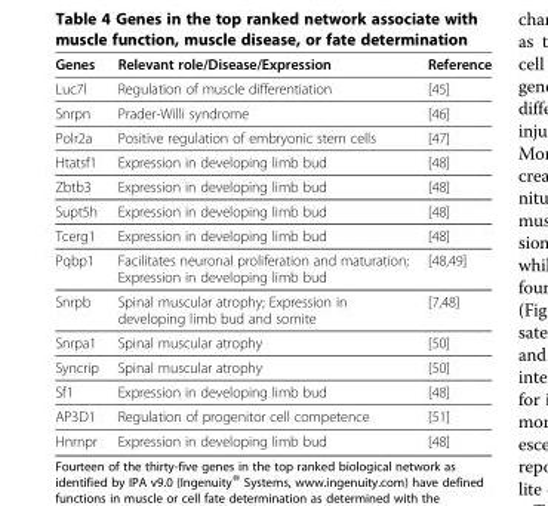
<table><thead><tr><td>Genes</td><td>Relevant role/Disease/Expression</td><td>Reference</td></tr></thead><tbody><tr><td>Luc7l</td><td>Regulation of muscle differentiation</td><td>[45]</td></tr><tr><td>Snrpn</td><td>Prader-Willi syndrome</td><td>[46]</td></tr><tr><td>Polr2a</td><td>Positive regulation of embryonic stem cells</td><td>[47]</td></tr><tr><td>Htatsf1</td><td>Expression in developing limb bud</td><td>[48]</td></tr><tr><td>Zbtb3</td><td>Expression in developing limb bud</td><td>[48]</td></tr><tr><td>Supt5h</td><td>Expression in developing limb bud</td><td>[48]</td></tr><tr><td>Tcerg1</td><td>Expression in developing limb bud</td><td>[48]</td></tr><tr><td>Pqbp1</td><td>Facilitates neuronal proliferation and maturation; Expression in developing limb bud</td><td>[48,49]</td></tr><tr><td>Snrpb</td><td>Spinal muscular atrophy; Expression in developing limb bud and somite</td><td>[7,48]</td></tr><tr><td>Snrpa1</td><td>Spinal muscular atrophy</td><td>[50]</td></tr><tr><td>Syncrip</td><td>Spinal muscular atrophy</td><td>[50]</td></tr><tr><td>Sf1</td><td>Expression in developing limb bud</td><td>[48]</td></tr><tr><td>AP3D1</td><td>Regulation of progenitor cell competence</td><td>[51]</td></tr><tr><td>Hnrnpr</td><td>Expression in developing limb bud</td><td>[48]</td></tr></tbody></table>